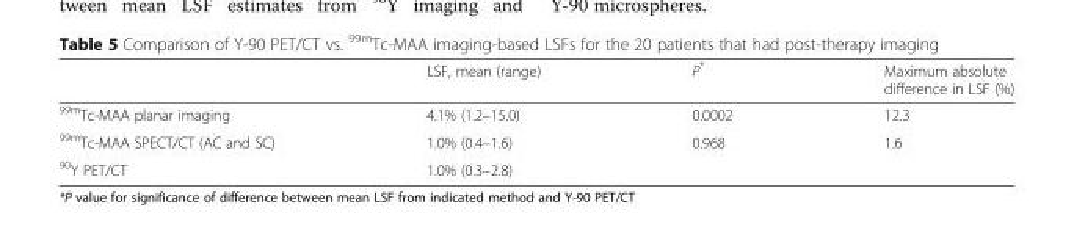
<table><thead><tr><td></td><td>LSF, mean (range)</td><td>P*</td><td>Maximum absolute difference in LSF (%)</td></tr></thead><tbody><tr><td><sup>99m</sup>Tc-MAA planar imaging</td><td>4.1% (1.2–15.0)</td><td>0.0002</td><td>12.3</td></tr><tr><td><sup>99m</sup>Tc-MAA SPECT/CT (AC and SC)</td><td>1.0% (0.4–1.6)</td><td>0.968</td><td>1.6</td></tr><tr><td><sup>90</sup>Y PET/CT</td><td>1.0% (0.3–2.8)</td><td></td><td></td></tr></tbody></table>